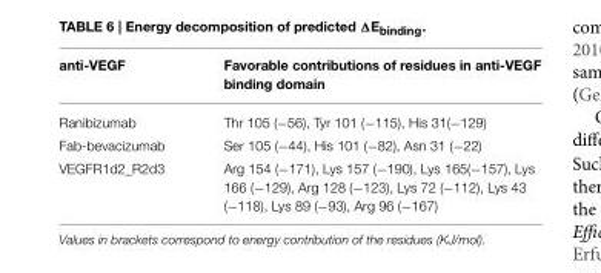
<table><thead><tr><td>anti-VEGF</td><td>Favorable contributions of residues in anti-VEGF binding domain</td></tr></thead><tbody><tr><td>Ranibizumab</td><td>Thr 105 (−56), Tyr 101 (−115), His 31(−129)</td></tr><tr><td>Fab-bevacizumab</td><td>Ser 105 (−44), His 101 (−82), Asn 31 (−22)</td></tr><tr><td>VEGFR1d2_R2d3</td><td>Arg 154 (−171), Lys 157 (−190), Lys 165(−157), Lys 166 (−129), Arg 128 (−123), Lys 72 (−112), Lys 43 (−118), Lys 89 (−93), Arg 96 (−167)</td></tr></tbody></table>